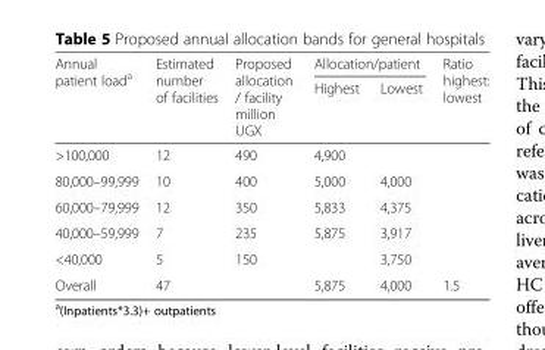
<table><thead><tr><td rowspan="2">Annual patient load<sup>a</sup></td><td rowspan="2">Estimated number of facilities</td><td rowspan="2">Proposed allocation / facility million UGX</td><td colspan="2">Allocation/patient</td><td rowspan="2">Ratio highest: lowest</td></tr><tr><td>Highest</td><td>Lowest</td></tr></thead><tbody><tr><td>&gt;100,000</td><td>12</td><td>490</td><td>4,900</td><td></td><td></td></tr><tr><td>80,000–99,999</td><td>10</td><td>400</td><td>5,000</td><td>4,000</td><td></td></tr><tr><td>60,000–79,999</td><td>12</td><td>350</td><td>5,833</td><td>4,375</td><td></td></tr><tr><td>40,000–59,999</td><td>7</td><td>235</td><td>5,875</td><td>3,917</td><td></td></tr><tr><td>&lt;40,000</td><td>5</td><td>150</td><td></td><td>3,750</td><td></td></tr><tr><td>Overall</td><td>47</td><td></td><td>5,875</td><td>4,000</td><td>1.5</td></tr></tbody></table>